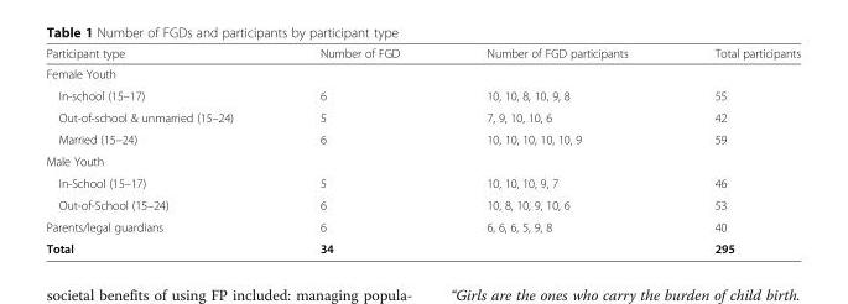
<table><thead><tr><td>Participant type</td><td>Number of FGD</td><td>Number of FGD participants</td><td>Total participants</td></tr></thead><tbody><tr><td colspan="4">Female Youth</td></tr><tr><td>In-school (15–17)</td><td>6</td><td>10, 10, 8, 10, 9, 8</td><td>55</td></tr><tr><td>Out-of-school &amp; unmarried (15–24)</td><td>5</td><td>7, 9, 10, 10, 6</td><td>42</td></tr><tr><td>Married (15–24)</td><td>6</td><td>10, 10, 10, 10, 10, 9</td><td>59</td></tr><tr><td colspan="4">Male Youth</td></tr><tr><td>In-School (15–17)</td><td>5</td><td>10, 10, 10, 9, 7</td><td>46</td></tr><tr><td>Out-of-School (15–24)</td><td>6</td><td>10, 8, 10, 9, 10, 6</td><td>53</td></tr><tr><td>Parents/legal guardians</td><td>6</td><td>6, 6, 6, 5, 9, 8</td><td>40</td></tr><tr><td>Total</td><td>34</td><td></td><td>295</td></tr></tbody></table>